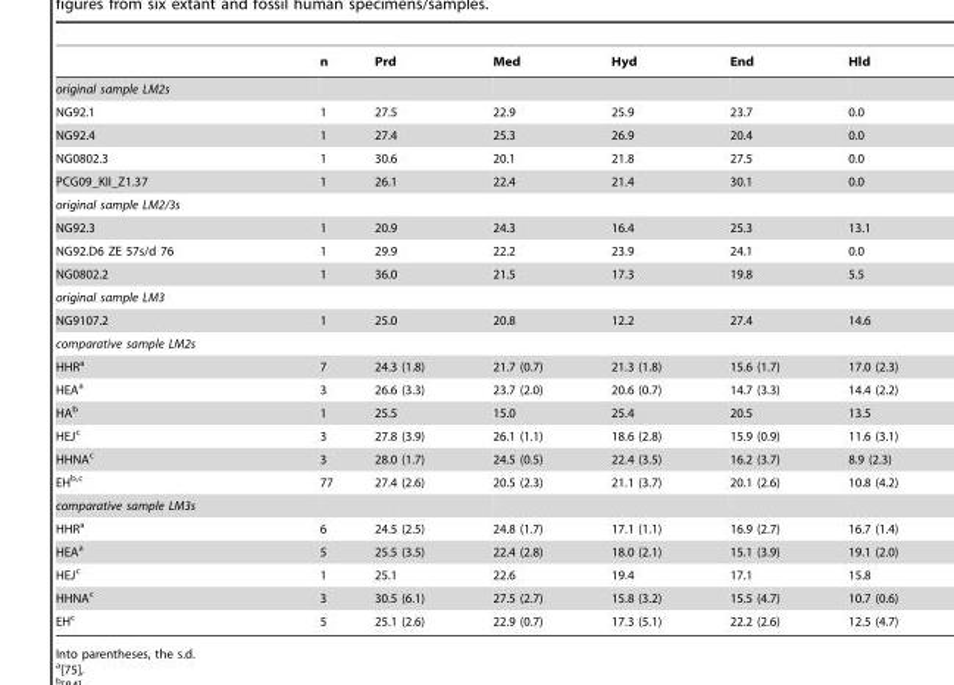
<table><thead><tr><td></td><td>n</td><td>Prd</td><td>Med</td><td>Hyd</td><td>End</td><td>Hld</td></tr></thead><tbody><tr><td colspan="7">original sample LM2s</td></tr><tr><td>NG92.1</td><td>1</td><td>27.5</td><td>22.9</td><td>25.9</td><td>23.7</td><td>0.0</td></tr><tr><td>NG92.4</td><td>1</td><td>27.4</td><td>25.3</td><td>26.9</td><td>20.4</td><td>0.0</td></tr><tr><td>NG0802.3</td><td>1</td><td>30.6</td><td>20.1</td><td>21.8</td><td>27.5</td><td>0.0</td></tr><tr><td>PCG09_KII_Z1.37</td><td>1</td><td>26.1</td><td>22.4</td><td>21.4</td><td>30.1</td><td>0.0</td></tr><tr><td colspan="7">original sample LM2/3s</td></tr><tr><td>NG92.3</td><td>1</td><td>20.9</td><td>24.3</td><td>16.4</td><td>25.3</td><td>13.1</td></tr><tr><td>NG92.D6 ZE 57s/d 76</td><td>1</td><td>29.9</td><td>22.2</td><td>23.9</td><td>24.1</td><td>0.0</td></tr><tr><td>NG0802.2</td><td>1</td><td>36.0</td><td>21.5</td><td>17.3</td><td>19.8</td><td>5.5</td></tr><tr><td colspan="7">original sample LM3</td></tr><tr><td>NG9107.2</td><td>1</td><td>25.0</td><td>20.8</td><td>12.2</td><td>27.4</td><td>14.6</td></tr><tr><td colspan="7">comparative sample LM2s</td></tr><tr><td>HHR<sup>a</sup></td><td>7</td><td>24.3 (1.8)</td><td>21.7 (0.7)</td><td>21.3 (1.8)</td><td>15.6 (1.7)</td><td>17.0 (2.3)</td></tr><tr><td>HEA<sup>a</sup></td><td>3</td><td>26.6 (3.3)</td><td>23.7 (2.0)</td><td>20.6 (0.7)</td><td>14.7 (3.3)</td><td>14.4 (2.2)</td></tr><tr><td>HA<sup>b</sup></td><td>1</td><td>25.5</td><td>15.0</td><td>25.4</td><td>20.5</td><td>13.5</td></tr><tr><td>HEJ<sup>c</sup></td><td>3</td><td>27.8 (3.9)</td><td>26.1 (1.1)</td><td>18.6 (2.8)</td><td>15.9 (0.9)</td><td>11.6 (3.1)</td></tr><tr><td>HHNA<sup>c</sup></td><td>3</td><td>28.0 (1.7)</td><td>24.5 (0.5)</td><td>22.4 (3.5)</td><td>16.2 (3.7)</td><td>8.9 (2.3)</td></tr><tr><td>EHb,c</td><td>77</td><td>27.4 (2.6)</td><td>20.5 (2.3)</td><td>21.1 (3.7)</td><td>20.1 (2.6)</td><td>10.8 (4.2)</td></tr><tr><td colspan="7">comparative sample LM3s</td></tr><tr><td>HHR<sup>a</sup></td><td>6</td><td>24.5 (2.5)</td><td>24.8 (1.7)</td><td>17.1 (1.1)</td><td>16.9 (2.7)</td><td>16.7 (1.4)</td></tr><tr><td>HEA<sup>a</sup></td><td>5</td><td>25.5 (3.5)</td><td>22.4 (2.8)</td><td>18.0 (2.1)</td><td>15.1 (3.9)</td><td>19.1 (2.0)</td></tr><tr><td>HEJ<sup>c</sup></td><td>1</td><td>25.1</td><td>22.6</td><td>19.4</td><td>17.1</td><td>15.8</td></tr><tr><td>HHNA<sup>c</sup></td><td>3</td><td>30.5 (6.1)</td><td>27.5 (2.7)</td><td>15.8 (3.2)</td><td>15.5 (4.7)</td><td>10.7 (0.6)</td></tr><tr><td>EH<sup>c</sup></td><td>5</td><td>25.1 (2.6)</td><td>22.9 (0.7)</td><td>17.3 (5.1)</td><td>22.2 (2.6)</td><td>12.5 (4.7)</td></tr></tbody></table>